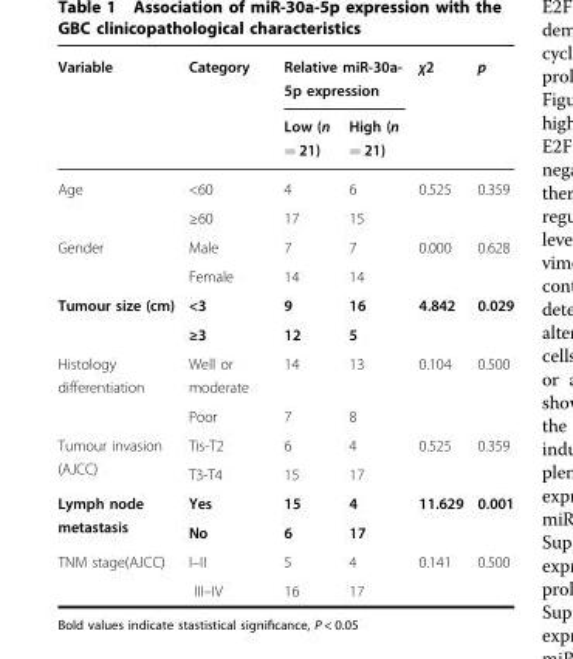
<table><thead><tr><td rowspan="2">Variable</td><td rowspan="2">Category</td><td colspan="2">Relative miR-30a- 5p expression</td><td rowspan="2">χ2</td><td rowspan="2">p</td></tr><tr><td>Low (n = 21)</td><td>High (n = 21)</td></tr></thead><tbody><tr><td rowspan="2">Age</td><td>&lt;60</td><td>4</td><td>6</td><td rowspan="2">0.525</td><td rowspan="2">0.359</td></tr><tr><td>≥60</td><td>17</td><td>15</td></tr><tr><td rowspan="2">Gender</td><td>Male</td><td>7</td><td>7</td><td rowspan="2">0.000</td><td rowspan="2">0.628</td></tr><tr><td>Female</td><td>14</td><td>14</td></tr><tr><td rowspan="2">Tumour size (cm)</td><td>&lt;3</td><td>9</td><td>16</td><td rowspan="2">4.842</td><td rowspan="2">0.029</td></tr><tr><td>≥3</td><td>12</td><td>5</td></tr><tr><td rowspan="2">Histology differentiation</td><td>Well or moderate</td><td>14</td><td>13</td><td rowspan="2">0.104</td><td rowspan="2">0.500</td></tr><tr><td>Poor</td><td>7</td><td>8</td></tr><tr><td rowspan="2">Tumour invasion (AJCC)</td><td>Tis-T2</td><td>6</td><td>4</td><td rowspan="2">0.525</td><td rowspan="2">0.359</td></tr><tr><td>T3-T4</td><td>15</td><td>17</td></tr><tr><td rowspan="2">Lymph node metastasis</td><td>Yes</td><td>15</td><td>4</td><td rowspan="2">11.629</td><td rowspan="2">0.001</td></tr><tr><td>No</td><td>6</td><td>17</td></tr><tr><td rowspan="2">TNM stage(AJCC)</td><td>I–II</td><td>5</td><td>4</td><td rowspan="2">0.141</td><td rowspan="2">0.500</td></tr><tr><td>III–IV</td><td>16</td><td>17</td></tr></tbody></table>